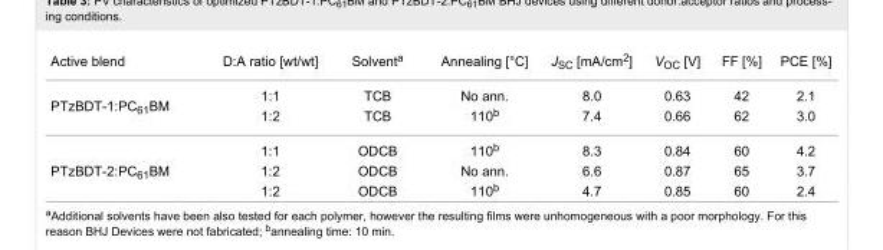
<table><tbody><tr><td>Active blend</td><td>D:A ratio [wt/wt]</td><td>Solvent<sup>a</sup></td><td>Annealing [°C]</td><td>J<sub>SC</sub> [mA/cm<sup>2</sup>]</td><td>V<sub>OC</sub> [V]</td><td>FF [%]</td><td>PCE [%]</td></tr><tr><td rowspan="2">PTzBDT-1:PC<sub>61</sub>BM</td><td>1:1</td><td>TCB</td><td>No ann.</td><td>8.0</td><td>0.63</td><td>42</td><td>2.1</td></tr><tr><td>1:2</td><td>TCB</td><td>110<sup>b</sup></td><td>7.4</td><td>0.66</td><td>62</td><td>3.0</td></tr><tr><td rowspan="3">PTzBDT-2:PC<sub>61</sub>BM</td><td>1:1</td><td>ODCB</td><td>110<sup>b</sup></td><td>8.3</td><td>0.84</td><td>60</td><td>4.2</td></tr><tr><td>1:2</td><td>ODCB</td><td>No ann.</td><td>6.6</td><td>0.87</td><td>65</td><td>3.7</td></tr><tr><td>1:2</td><td>ODCB</td><td>110<sup>b</sup></td><td>4.7</td><td>0.85</td><td>60</td><td>2.4</td></tr></tbody></table>